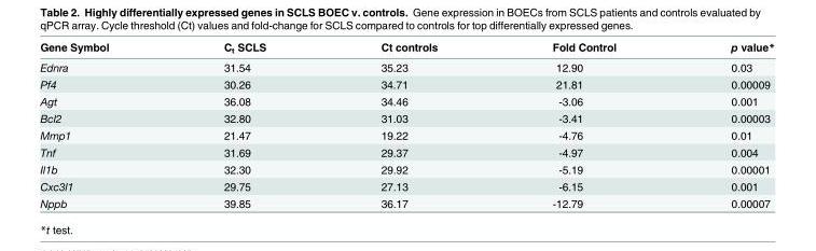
<table><thead><tr><td>Gene Symbol</td><td>C<sub>t</sub> SCLS</td><td>Ct controls</td><td>Fold Control</td><td>p value*</td></tr></thead><tbody><tr><td>Ednra</td><td>31.54</td><td>35.23</td><td>12.90</td><td>0.03</td></tr><tr><td>Pf4</td><td>30.26</td><td>34.71</td><td>21.81</td><td>0.00009</td></tr><tr><td>Agt</td><td>36.08</td><td>34.46</td><td>-3.06</td><td>0.001</td></tr><tr><td>Bcl2</td><td>32.80</td><td>31.03</td><td>-3.41</td><td>0.00003</td></tr><tr><td>Mmp1</td><td>21.47</td><td>19.22</td><td>-4.76</td><td>0.01</td></tr><tr><td>Tnf</td><td>31.69</td><td>29.37</td><td>-4.97</td><td>0.004</td></tr><tr><td>Il1b</td><td>32.30</td><td>29.92</td><td>-5.19</td><td>0.00001</td></tr><tr><td>Cxc3l1</td><td>29.75</td><td>27.13</td><td>-6.15</td><td>0.001</td></tr><tr><td>Nppb</td><td>39.85</td><td>36.17</td><td>-12.79</td><td>0.00007</td></tr></tbody></table>